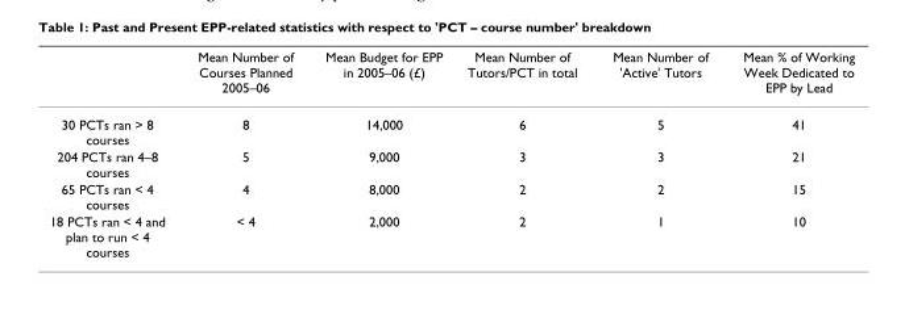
<table><thead><tr><td></td><td>Mean Number of Courses Planned 2005–06</td><td>Mean Budget for EPP in 2005–06 (£)</td><td>Mean Number of Tutors/PCT in total</td><td>Mean Number of &#x27;Active&#x27; Tutors</td><td>Mean % of Working Week Dedicated to EPP by Lead</td></tr></thead><tbody><tr><td>30 PCTs ran &gt; 8 courses</td><td>8</td><td>14,000</td><td>6</td><td>5</td><td>41</td></tr><tr><td>204 PCTs ran 4–8 courses</td><td>5</td><td>9,000</td><td>3</td><td>3</td><td>21</td></tr><tr><td>65 PCTs ran &lt; 4 courses</td><td>4</td><td>8,000</td><td>2</td><td>2</td><td>15</td></tr><tr><td>18 PCTs ran &lt; 4 and plan to run &lt; 4 courses</td><td>&lt; 4</td><td>2,000</td><td>2</td><td>1</td><td>10</td></tr></tbody></table>